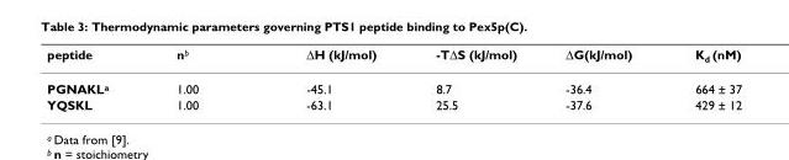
<table><thead><tr><td>peptide</td><td>n<sup>b</sup></td><td>ΔH (kJ/mol)</td><td>-TΔS (kJ/mol)</td><td>ΔG(kJ/mol)</td><td>K<sub>d</sub> (nM)</td></tr></thead><tbody><tr><td>PGNAKL<sup>a</sup></td><td>1.00</td><td>-45.1</td><td>8.7</td><td>-36.4</td><td>664 ± 37</td></tr><tr><td>YQSKL</td><td>1.00</td><td>-63.1</td><td>25.5</td><td>-37.6</td><td>429 ± 12</td></tr></tbody></table>